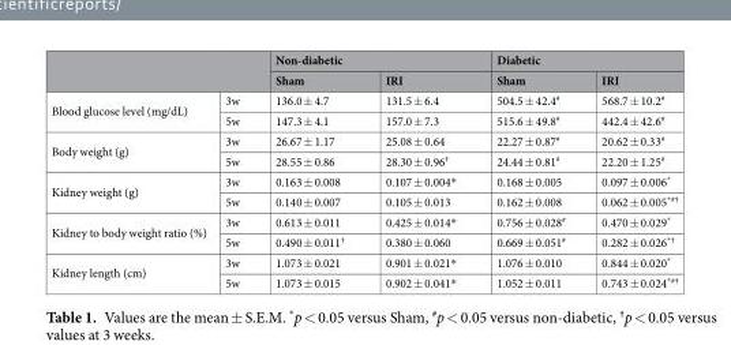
<table><thead><tr><td rowspan="2"></td><td rowspan="2"></td><td colspan="2">Non-diabetic</td><td colspan="2">Diabetic</td></tr><tr><td>Sham</td><td>IRI</td><td>Sham</td><td>IRI</td></tr></thead><tbody><tr><td rowspan="2">Blood glucose level (mg/dL)</td><td>3w</td><td>136.0 ± 4.7</td><td>131.5 ± 6.4</td><td>504.5 ± 42.4<sup>#</sup></td><td>568.7 ± 10.2<sup>#</sup></td></tr><tr><td>5w</td><td>147.3 ± 4.1</td><td>157.0 ± 7.3</td><td>515.6 ± 49.8<sup>#</sup></td><td>442.4 ± 42.6<sup>#</sup></td></tr><tr><td rowspan="2">Body weight (g)</td><td>3w</td><td>26.67 ± 1.17</td><td>25.08 ± 0.64</td><td>22.27 ± 0.87<sup>#</sup></td><td>20.62 ± 0.33<sup>#</sup></td></tr><tr><td>5w</td><td>28.55 ± 0.86</td><td>28.30 ± 0.96<sup>†</sup></td><td>24.44 ± 0.81<sup>#</sup></td><td>22.20 ± 1.25<sup>#</sup></td></tr><tr><td rowspan="2">Kidney weight (g)</td><td>3w</td><td>0.163 ± 0.008</td><td>0.107 ± 0.004*</td><td>0.168 ± 0.005</td><td>0.097 ± 0.006*</td></tr><tr><td>5w</td><td>0.140 ± 0.007</td><td>0.105 ± 0.013</td><td>0.162 ± 0.008</td><td>0.062 ± 0.005<sup>*#†</sup></td></tr><tr><td rowspan="2">Kidney to body weight ratio (%)</td><td>3w</td><td>0.613 ± 0.011</td><td>0.425 ± 0.014*</td><td>0.756 ± 0.028<sup>#</sup></td><td>0.470 ± 0.029*</td></tr><tr><td>5w</td><td>0.490 ± 0.011<sup>†</sup></td><td>0.380 ± 0.060</td><td>0.669 ± 0.051<sup>#</sup></td><td>0.282 ± 0.026<sup>*†</sup></td></tr><tr><td rowspan="2">Kidney length (cm)</td><td>3w</td><td>1.073 ± 0.021</td><td>0.901 ± 0.021*</td><td>1.076 ± 0.010</td><td>0.844 ± 0.020*</td></tr><tr><td>5w</td><td>1.073 ± 0.015</td><td>0.902 ± 0.041*</td><td>1.052 ± 0.011</td><td>0.743 ± 0.024<sup>*#†</sup></td></tr></tbody></table>